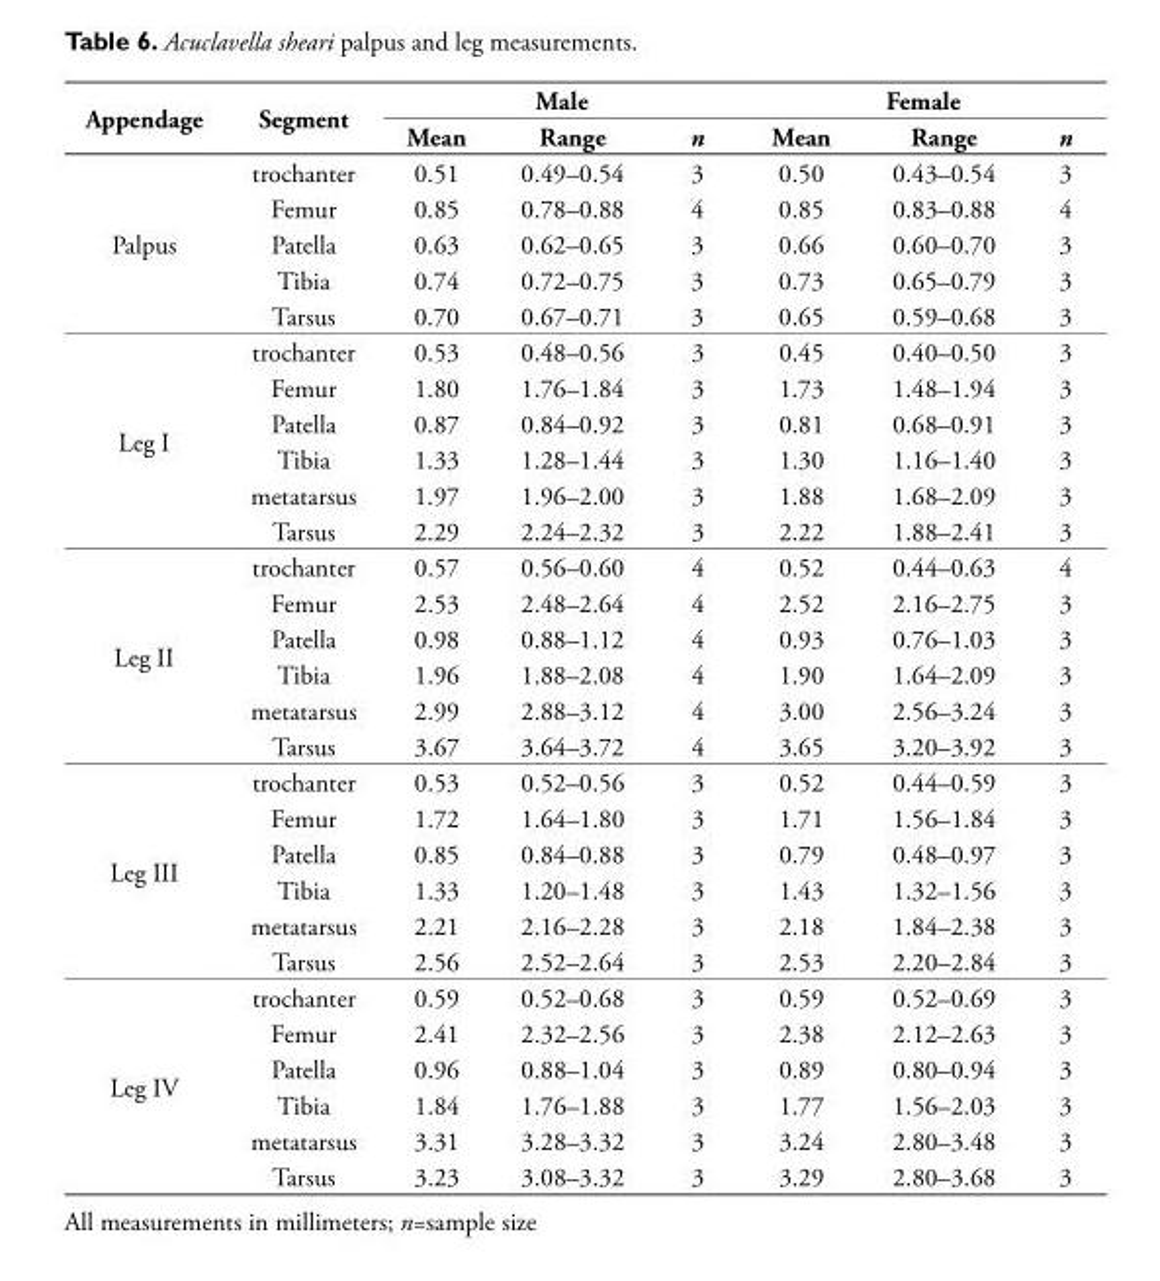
<table><thead><tr><td rowspan="2">Appendage</td><td rowspan="2">Segment</td><td colspan="3">Male</td><td colspan="3">Female</td></tr><tr><td>Mean</td><td>Range</td><td>n</td><td>Mean</td><td>Range</td><td>n</td></tr></thead><tbody><tr><td rowspan="5">Palpus</td><td>trochanter</td><td>0.51</td><td>0.49–0.54</td><td>3</td><td>0.50</td><td>0.43–0.54</td><td>3</td></tr><tr><td>Femur</td><td>0.85</td><td>0.78–0.88</td><td>4</td><td>0.85</td><td>0.83–0.88</td><td>4</td></tr><tr><td>Patella</td><td>0.63</td><td>0.62–0.65</td><td>3</td><td>0.66</td><td>0.60–0.70</td><td>3</td></tr><tr><td>Tibia</td><td>0.74</td><td>0.72–0.75</td><td>3</td><td>0.73</td><td>0.65–0.79</td><td>3</td></tr><tr><td>Tarsus</td><td>0.70</td><td>0.67–0.71</td><td>3</td><td>0.65</td><td>0.59–0.68</td><td>3</td></tr><tr><td rowspan="6">Leg I</td><td>trochanter</td><td>0.53</td><td>0.48–0.56</td><td>3</td><td>0.45</td><td>0.40–0.50</td><td>3</td></tr><tr><td>Femur</td><td>1.80</td><td>1.76–1.84</td><td>3</td><td>1.73</td><td>1.48–1.94</td><td>3</td></tr><tr><td>Patella</td><td>0.87</td><td>0.84–0.92</td><td>3</td><td>0.81</td><td>0.68–0.91</td><td>3</td></tr><tr><td>Tibia</td><td>1.33</td><td>1.28–1.44</td><td>3</td><td>1.30</td><td>1.16–1.40</td><td>3</td></tr><tr><td>metatarsus</td><td>1.97</td><td>1.96–2.00</td><td>3</td><td>1.88</td><td>1.68–2.09</td><td>3</td></tr><tr><td>Tarsus</td><td>2.29</td><td>2.24–2.32</td><td>3</td><td>2.22</td><td>1.88–2.41</td><td>3</td></tr><tr><td rowspan="6">Leg II</td><td>trochanter</td><td>0.57</td><td>0.56–0.60</td><td>4</td><td>0.52</td><td>0.44–0.63</td><td>4</td></tr><tr><td>Femur</td><td>2.53</td><td>2.48–2.64</td><td>4</td><td>2.52</td><td>2.16–2.75</td><td>3</td></tr><tr><td>Patella</td><td>0.98</td><td>0.88–1.12</td><td>4</td><td>0.93</td><td>0.76–1.03</td><td>3</td></tr><tr><td>Tibia</td><td>1.96</td><td>1.88–2.08</td><td>4</td><td>1.90</td><td>1.64–2.09</td><td>3</td></tr><tr><td>metatarsus</td><td>2.99</td><td>2.88–3.12</td><td>4</td><td>3.00</td><td>2.56–3.24</td><td>3</td></tr><tr><td>Tarsus</td><td>3.67</td><td>3.64–3.72</td><td>4</td><td>3.65</td><td>3.20–3.92</td><td>3</td></tr><tr><td rowspan="6">Leg III</td><td>trochanter</td><td>0.53</td><td>0.52–0.56</td><td>3</td><td>0.52</td><td>0.44–0.59</td><td>3</td></tr><tr><td>Femur</td><td>1.72</td><td>1.64–1.80</td><td>3</td><td>1.71</td><td>1.56–1.84</td><td>3</td></tr><tr><td>Patella</td><td>0.85</td><td>0.84–0.88</td><td>3</td><td>0.79</td><td>0.48–0.97</td><td>3</td></tr><tr><td>Tibia</td><td>1.33</td><td>1.20–1.48</td><td>3</td><td>1.43</td><td>1.32–1.56</td><td>3</td></tr><tr><td>metatarsus</td><td>2.21</td><td>2.16–2.28</td><td>3</td><td>2.18</td><td>1.84–2.38</td><td>3</td></tr><tr><td>Tarsus</td><td>2.56</td><td>2.52–2.64</td><td>3</td><td>2.53</td><td>2.20–2.84</td><td>3</td></tr><tr><td rowspan="6">Leg IV</td><td>trochanter</td><td>0.59</td><td>0.52–0.68</td><td>3</td><td>0.59</td><td>0.52–0.69</td><td>3</td></tr><tr><td>Femur</td><td>2.41</td><td>2.32–2.56</td><td>3</td><td>2.38</td><td>2.12–2.63</td><td>3</td></tr><tr><td>Patella</td><td>0.96</td><td>0.88–1.04</td><td>3</td><td>0.89</td><td>0.80–0.94</td><td>3</td></tr><tr><td>Tibia</td><td>1.84</td><td>1.76–1.88</td><td>3</td><td>1.77</td><td>1.56–2.03</td><td>3</td></tr><tr><td>metatarsus</td><td>3.31</td><td>3.28–3.32</td><td>3</td><td>3.24</td><td>2.80–3.48</td><td>3</td></tr><tr><td>Tarsus</td><td>3.23</td><td>3.08–3.32</td><td>3</td><td>3.29</td><td>2.80–3.68</td><td>3</td></tr></tbody></table>